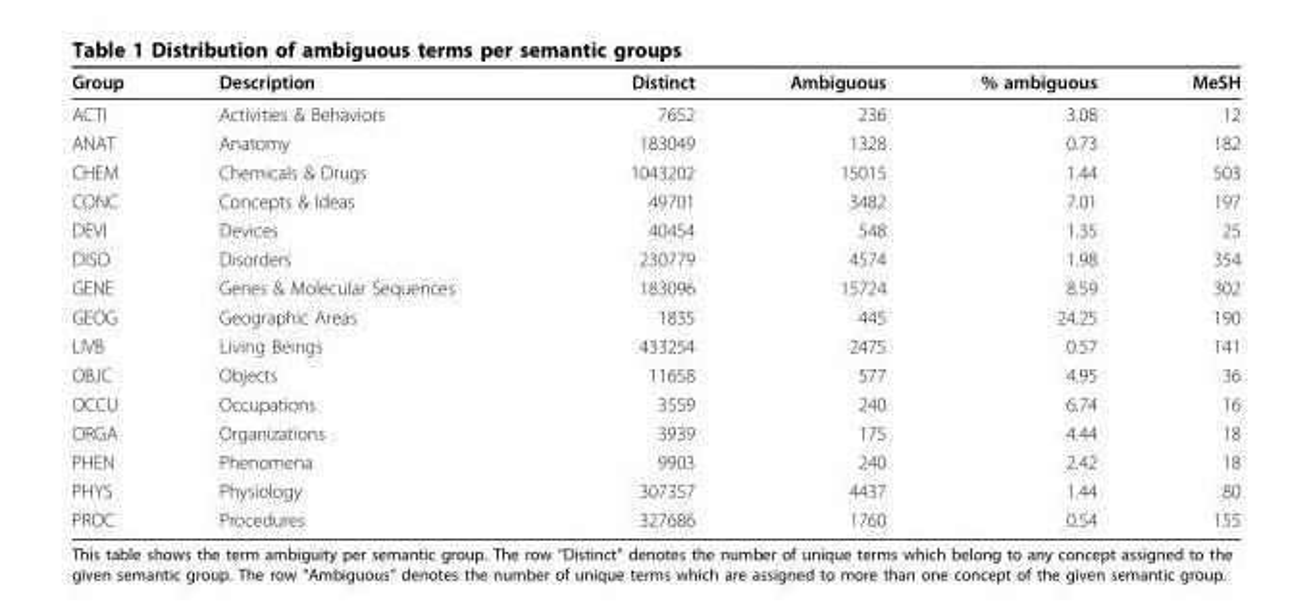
<table><thead><tr><td>Group</td><td>Description</td><td>Distinct</td><td>Ambiguous</td><td>% ambiguous</td><td>MeSH</td></tr></thead><tbody><tr><td>ACTI</td><td>Activities &amp; Behaviors</td><td>7652</td><td>236</td><td>3.08</td><td>12</td></tr><tr><td>ANAT</td><td>Anatomy</td><td>183049</td><td>1328</td><td>0.73</td><td>182</td></tr><tr><td>CHEM</td><td>Chemicals &amp; Drugs</td><td>1043202</td><td>15015</td><td>1.44</td><td>503</td></tr><tr><td>CONC</td><td>Concepts &amp; Ideas</td><td>49701</td><td>3482</td><td>7.01</td><td>197</td></tr><tr><td>DEVI</td><td>Devices</td><td>40454</td><td>548</td><td>1.35</td><td>25</td></tr><tr><td>DISO</td><td>Disorders</td><td>230779</td><td>4574</td><td>1.98</td><td>354</td></tr><tr><td>GENE</td><td>Genes &amp; Molecular Sequences</td><td>183096</td><td>15724</td><td>8.59</td><td>302</td></tr><tr><td>GEOG</td><td>Geographic Areas</td><td>1835</td><td>445</td><td>24.25</td><td>190</td></tr><tr><td>LIVB</td><td>Living Beings</td><td>433254</td><td>2475</td><td>0.57</td><td>141</td></tr><tr><td>OBJC</td><td>Objects</td><td>11658</td><td>577</td><td>4.95</td><td>36</td></tr><tr><td>OCCU</td><td>Occupations</td><td>3559</td><td>240</td><td>6.74</td><td>16</td></tr><tr><td>ORGA</td><td>Organizations</td><td>3939</td><td>175</td><td>4.44</td><td>18</td></tr><tr><td>PHEN</td><td>Phenomena</td><td>9903</td><td>240</td><td>2.42</td><td>18</td></tr><tr><td>PHYS</td><td>Physiology</td><td>307357</td><td>4437</td><td>1.44</td><td>80</td></tr><tr><td>PROC</td><td>Procedures</td><td>327686</td><td>1760</td><td>0.54</td><td>155</td></tr></tbody></table>